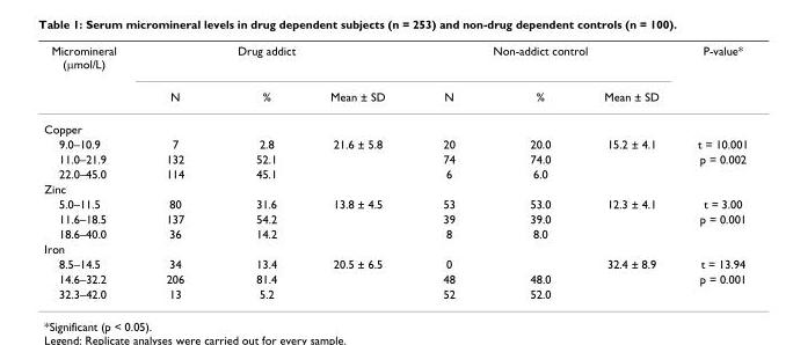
<table><thead><tr><td rowspan="2">Micromineral (μmol/L)</td><td colspan="3">Drug addict</td><td colspan="3">Non-addict control</td><td rowspan="2">P-value*</td></tr><tr><td>N</td><td>%</td><td>Mean ± SD</td><td>N</td><td>%</td><td>Mean ± SD</td></tr></thead><tbody><tr><td colspan="8">Copper</td></tr><tr><td>9.0–10.9</td><td>7</td><td>2.8</td><td>21.6 ± 5.8</td><td>20</td><td>20.0</td><td>15.2 ± 4.1</td><td>t = 10.001</td></tr><tr><td>11.0–21.9</td><td>132</td><td>52.1</td><td></td><td>74</td><td>74.0</td><td></td><td>p = 0.002</td></tr><tr><td>22.0–45.0</td><td>114</td><td>45.1</td><td></td><td>6</td><td>6.0</td><td></td><td></td></tr><tr><td colspan="8">Zinc</td></tr><tr><td>5.0–11.5</td><td>80</td><td>31.6</td><td>13.8 ± 4.5</td><td>53</td><td>53.0</td><td>12.3 ± 4.1</td><td>t = 3.00</td></tr><tr><td>11.6–18.5</td><td>137</td><td>54.2</td><td></td><td>39</td><td>39.0</td><td></td><td>p = 0.001</td></tr><tr><td>18.6–40.0</td><td>36</td><td>14.2</td><td></td><td>8</td><td>8.0</td><td></td><td></td></tr><tr><td colspan="8">Iron</td></tr><tr><td>8.5–14.5</td><td>34</td><td>13.4</td><td>20.5 ± 6.5</td><td>0</td><td></td><td>32.4 ± 8.9</td><td>t = 13.94</td></tr><tr><td>14.6–32.2</td><td>206</td><td>81.4</td><td></td><td>48</td><td>48.0</td><td></td><td>p = 0.001</td></tr><tr><td>32.3–42.0</td><td>13</td><td>5.2</td><td></td><td>52</td><td>52.0</td><td></td><td></td></tr></tbody></table>